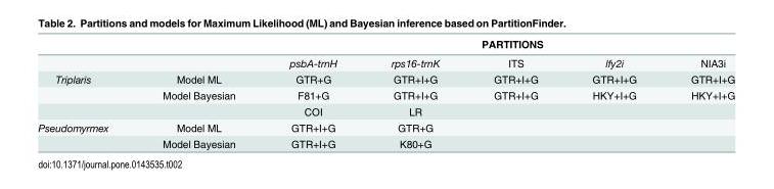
<table><thead><tr><td rowspan="2"></td><td rowspan="2"></td><td colspan="5">PARTITIONS</td></tr><tr><td>psbA-trnH</td><td>rps16-trnK</td><td>ITS</td><td>lfy2i</td><td>NIA3i</td></tr></thead><tbody><tr><td rowspan="3">Triplaris</td><td>Model ML</td><td>GTR+G</td><td>GTR+I+G</td><td>GTR+I+G</td><td>GTR+I+G</td><td>GTR+I+G</td></tr><tr><td>Model Bayesian</td><td>F81+G</td><td>GTR+I+G</td><td>GTR+I+G</td><td>HKY+I+G</td><td>HKY+I+G</td></tr><tr><td></td><td>COI</td><td>LR</td><td></td><td></td><td></td></tr><tr><td rowspan="2">Pseudomyrmex</td><td>Model ML</td><td>GTR+I+G</td><td>GTR+G</td><td></td><td></td><td></td></tr><tr><td>Model Bayesian</td><td>GTR+I+G</td><td>K80+G</td><td></td><td></td><td></td></tr></tbody></table>